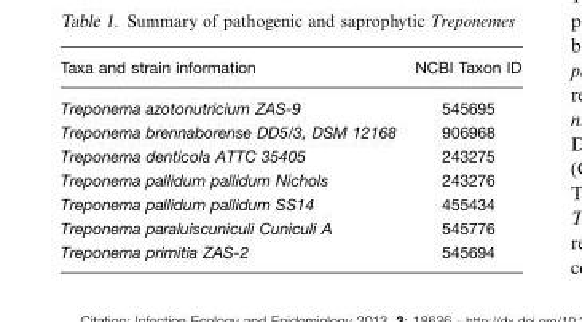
<table><thead><tr><td>Taxa and strain information</td><td>NCBI Taxon ID</td></tr></thead><tbody><tr><td>Treponema azotonutricium ZAS-9</td><td>545695</td></tr><tr><td>Treponema brennaborense DD5/3, DSM 12168</td><td>906968</td></tr><tr><td>Treponema denticola ATTC 35405</td><td>243275</td></tr><tr><td>Treponema pallidum pallidum Nichols</td><td>243276</td></tr><tr><td>Treponema pallidum pallidum SS14</td><td>455434</td></tr><tr><td>Treponema paraluiscuniculi Cuniculi A</td><td>545776</td></tr><tr><td>Treponema primitia ZAS-2</td><td>545694</td></tr></tbody></table>